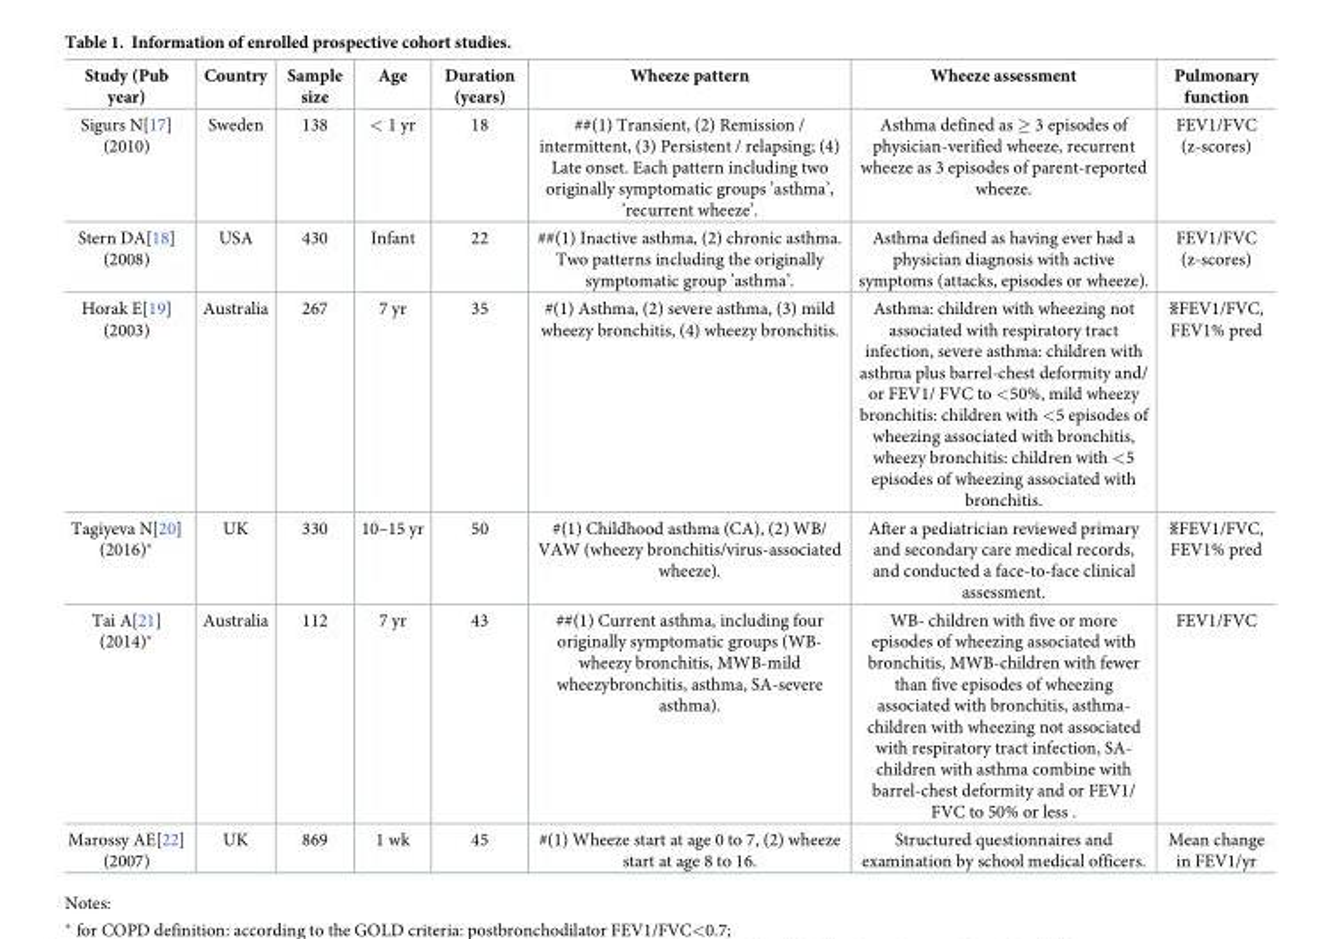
<table><thead><tr><td>Study (Pub year)</td><td>Country</td><td>Sample size</td><td>Age</td><td>Duration (years)</td><td>Wheeze pattern</td><td>Wheeze assessment</td><td>Pulmonary function</td></tr></thead><tbody><tr><td>Sigurs N[17] (2010)</td><td>Sweden</td><td>138</td><td>&lt; 1 yr</td><td>18</td><td>##(1) Transient, (2) Remission / intermittent, (3) Persistent / relapsing; (4) Late onset. Each pattern including two originally symptomatic groups ’asthma’, ’recurrent wheeze’.</td><td>Asthma defined as ≥ 3 episodes of physician-verified wheeze, recurrent wheeze as 3 episodes of parent-reported wheeze.</td><td>FEV1/FVC (z-scores)</td></tr><tr><td>Stern DA[18] (2008)</td><td>USA</td><td>430</td><td>Infant</td><td>22</td><td>##(1) Inactive asthma, (2) chronic asthma. Two patterns including the originally symptomatic group ’asthma’.</td><td>Asthma defined as having ever had a physician diagnosis with active symptoms (attacks, episodes or wheeze).</td><td>FEV1/FVC (z-scores)</td></tr><tr><td>Horak E[19] (2003)</td><td>Australia</td><td>267</td><td>7 yr</td><td>35</td><td>#(1) Asthma, (2) severe asthma, (3) mild wheezy bronchitis, (4) wheezy bronchitis.</td><td>Asthma: children with wheezing not associated with respiratory tract infection, severe asthma: children with asthma plus barrel-chest deformity and/ or FEV1/ FVC to &lt;50%, mild wheezy bronchitis: children with &lt;5 episodes of wheezing associated with bronchitis, wheezy bronchitis: children with &lt;5 episodes of wheezing associated with bronchitis.</td><td>※FEV1/FVC, FEV1% pred</td></tr><tr><td>Tagiyeva N[20] (2016)*</td><td>UK</td><td>330</td><td>10–15 yr</td><td>50</td><td>#(1) Childhood asthma (CA), (2) WB/ VAW (wheezy bronchitis/virus-associated wheeze).</td><td>After a pediatrician reviewed primary and secondary care medical records, and conducted a face-to-face clinical assessment.</td><td>※FEV1/FVC, FEV1% pred</td></tr><tr><td>Tai A[21] (2014)*</td><td>Australia</td><td>112</td><td>7 yr</td><td>43</td><td>##(1) Current asthma, including four originally symptomatic groups (WB- wheezy bronchitis, MWB-mild wheezybronchitis, asthma, SA-severe asthma).</td><td>WB- children with five or more episodes of wheezing associated with bronchitis, MWB-children with fewer than five episodes of wheezing associated with bronchitis, asthma- children with wheezing not associated with respiratory tract infection, SA- children with asthma combine with barrel-chest deformity and or FEV1/ FVC to 50% or less .</td><td>FEV1/FVC</td></tr><tr><td>Marossy AE[22] (2007)</td><td>UK</td><td>869</td><td>1 wk</td><td>45</td><td>#(1) Wheeze start at age 0 to 7, (2) wheeze start at age 8 to 16.</td><td>Structured questionnaires and examination by school medical officers.</td><td>Mean change in FEV1/yr</td></tr></tbody></table>